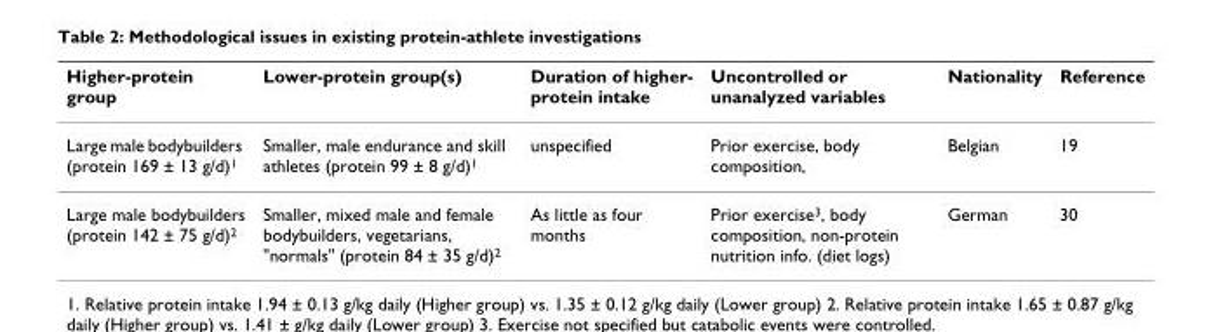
<table><thead><tr><td>Higher-protein group</td><td>Lower-protein group(s)</td><td>Duration of higher- protein intake</td><td>Uncontrolled or unanalyzed variables</td><td>Nationality</td><td>Reference</td></tr></thead><tbody><tr><td>Large male bodybuilders (protein 169 ± 13 g/d)<sup>1</sup></td><td>Smaller, male endurance and skill athletes (protein 99 ± 8 g/d)<sup>1</sup></td><td>unspecified</td><td>Prior exercise, body composition,</td><td>Belgian</td><td>19</td></tr><tr><td>Large male bodybuilders (protein 142 ± 75 g/d)<sup>2</sup></td><td>Smaller, mixed male and female bodybuilders, vegetarians, &quot;normals&quot; (protein 84 ± 35 g/d)<sup>2</sup></td><td>As little as four months</td><td>Prior exercise<sup>3</sup>, body composition, non-protein nutrition info. (diet logs)</td><td>German</td><td>30</td></tr></tbody></table>